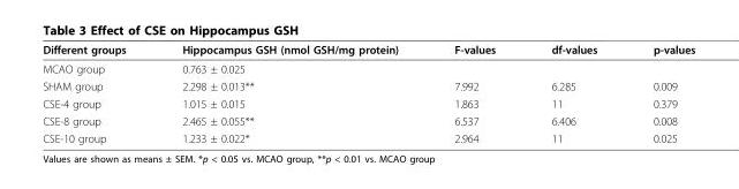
<table><thead><tr><td>Different groups</td><td>Hippocampus GSH (nmol GSH/mg protein)</td><td>F-values</td><td>df-values</td><td>p-values</td></tr></thead><tbody><tr><td>MCAO group</td><td>0.763 ± 0.025</td><td></td><td></td><td></td></tr><tr><td>SHAM group</td><td>2.298 ± 0.013**</td><td>7.992</td><td>6.285</td><td>0.009</td></tr><tr><td>CSE-4 group</td><td>1.015 ± 0.015</td><td>1.863</td><td>11</td><td>0.379</td></tr><tr><td>CSE-8 group</td><td>2.465 ± 0.055**</td><td>6.537</td><td>6.406</td><td>0.008</td></tr><tr><td>CSE-10 group</td><td>1.233 ± 0.022*</td><td>2.964</td><td>11</td><td>0.025</td></tr></tbody></table>